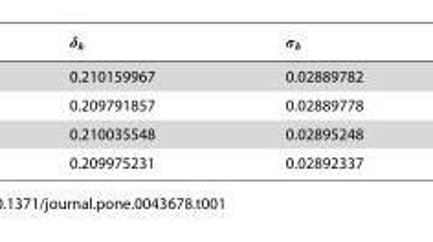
<table><tbody><tr><td>0.210159967</td><td>0.02889782</td></tr><tr><td>0.209791857</td><td>0.02889778</td></tr><tr><td>0.210035548</td><td>0.02895248</td></tr><tr><td>0.209975231</td><td>0.02892337</td></tr></tbody></table>